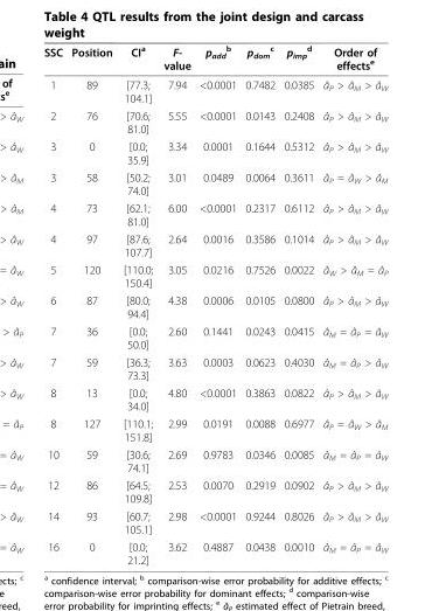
<table><thead><tr><td>SSC</td><td>Position</td><td>CI<sup>a</sup></td><td>F- value</td><td>p<sub>add</sub> <sup>b</sup></td><td>p<sub>dom</sub> <sup>c</sup></td><td>p<sub>imp</sub> <sup>d</sup></td><td>Order of effects<sup>e</sup></td></tr></thead><tbody><tr><td>1</td><td>89</td><td>[77.3; 104.1]</td><td>7.94</td><td>&lt;0.0001</td><td>0.7482</td><td>0.0385</td><td>â<sub>P</sub> &gt; â<sub>M</sub> &gt; â<sub>W</sub></td></tr><tr><td>2</td><td>76</td><td>[70.6; 81.0]</td><td>5.55</td><td>&lt;0.0001</td><td>0.0143</td><td>0.2408</td><td>â<sub>P</sub> &gt; â<sub>M</sub> &gt; â<sub>W</sub></td></tr><tr><td>3</td><td>0</td><td>[0.0; 35.9]</td><td>3.34</td><td>0.0001</td><td>0.1644</td><td>0.5312</td><td>â<sub>P</sub> &gt; â<sub>M</sub> &gt; â<sub>W</sub></td></tr><tr><td>3</td><td>58</td><td>[50.2; 74.0]</td><td>3.01</td><td>0.0489</td><td>0.0064</td><td>0.3611</td><td>â<sub>P</sub> = â<sub>W</sub> &gt; â<sub>M</sub></td></tr><tr><td>4</td><td>73</td><td>[62.1; 81.0]</td><td>6.00</td><td>&lt;0.0001</td><td>0.2317</td><td>0.6112</td><td>â<sub>P</sub> &gt; â<sub>M</sub> &gt; â<sub>W</sub></td></tr><tr><td>4</td><td>97</td><td>[87.6; 107.7]</td><td>2.64</td><td>0.0016</td><td>0.3586</td><td>0.1014</td><td>â<sub>P</sub> &gt; â<sub>M</sub> &gt; â<sub>W</sub></td></tr><tr><td>5</td><td>120</td><td>[110.0; 150.4]</td><td>3.05</td><td>0.0216</td><td>0.7526</td><td>0.0022</td><td>â<sub>W</sub> &gt; â<sub>M</sub> = â<sub>P</sub></td></tr><tr><td>6</td><td>87</td><td>[80.0; 94.4]</td><td>4.38</td><td>0.0006</td><td>0.0105</td><td>0.0800</td><td>â<sub>P</sub> &gt; â<sub>M</sub> &gt; â<sub>W</sub></td></tr><tr><td>7</td><td>36</td><td>[0.0; 50.0]</td><td>2.60</td><td>0.1441</td><td>0.0243</td><td>0.0415</td><td>â<sub>M</sub> = â<sub>P</sub> = â<sub>W</sub></td></tr><tr><td>7</td><td>59</td><td>[36.3; 73.3]</td><td>3.63</td><td>0.0003</td><td>0.0623</td><td>0.4030</td><td>â<sub>M</sub> = â<sub>P</sub> &gt; â<sub>W</sub></td></tr><tr><td>8</td><td>13</td><td>[0.0; 34.0]</td><td>4.80</td><td>&lt;0.0001</td><td>0.3863</td><td>0.0822</td><td>â<sub>P</sub> &gt; â<sub>M</sub> &gt; â<sub>W</sub></td></tr><tr><td>8</td><td>127</td><td>[110.1; 151.8]</td><td>2.99</td><td>0.0191</td><td>0.0088</td><td>0.6977</td><td>â<sub>P</sub> = â<sub>W</sub> &gt; â<sub>M</sub></td></tr><tr><td>10</td><td>59</td><td>[30.6; 74.1]</td><td>2.69</td><td>0.9783</td><td>0.0346</td><td>0.0085</td><td>â<sub>M</sub> = â<sub>P</sub> = â<sub>W</sub></td></tr><tr><td>12</td><td>86</td><td>[64.5; 109.8]</td><td>2.53</td><td>0.0070</td><td>0.2919</td><td>0.0902</td><td>â<sub>P</sub> &gt; â<sub>M</sub> &gt; â<sub>W</sub></td></tr><tr><td>14</td><td>93</td><td>[60.7; 105.1]</td><td>2.98</td><td>&lt;0.0001</td><td>0.9244</td><td>0.8026</td><td>â<sub>P</sub> &gt; â<sub>M</sub> &gt; â<sub>W</sub></td></tr><tr><td>16</td><td>0</td><td>[0.0; 21.2]</td><td>3.62</td><td>0.4887</td><td>0.0438</td><td>0.0010</td><td>â<sub>M</sub> = â<sub>P</sub> = â<sub>W</sub></td></tr></tbody></table>